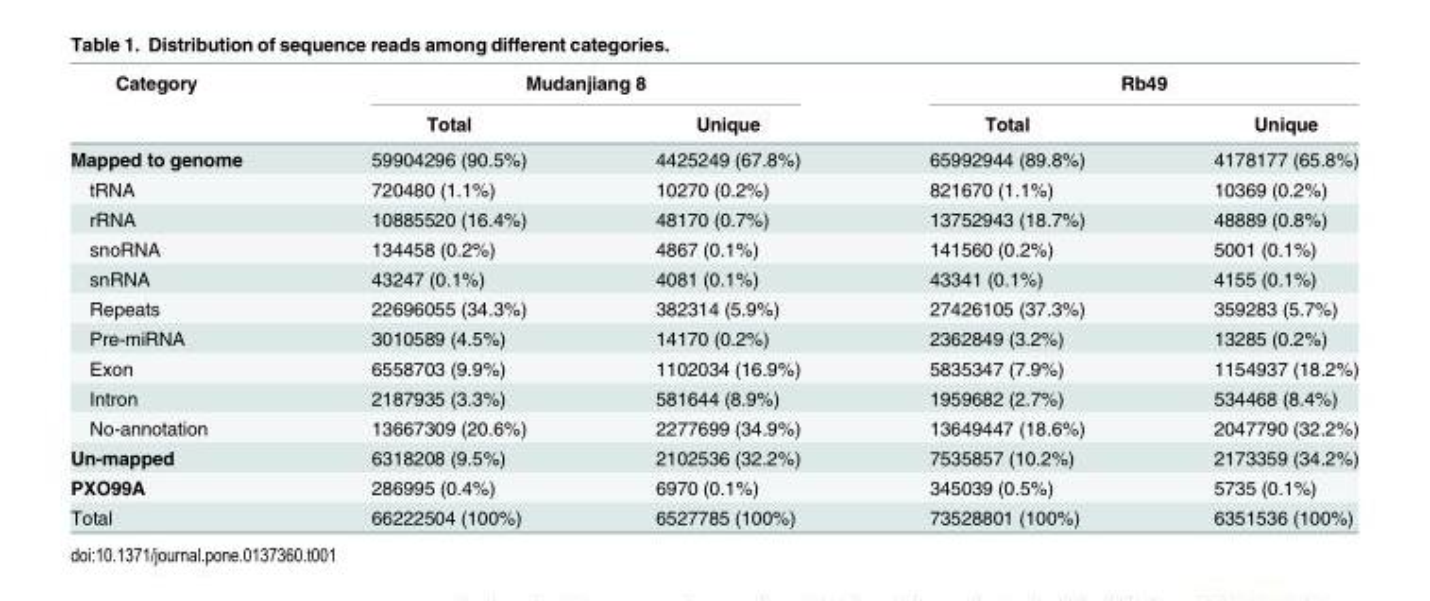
<table><thead><tr><td rowspan="2">Category</td><td colspan="2">Mudanjiang 8</td><td colspan="2">Rb49</td></tr><tr><td>Total</td><td>Unique</td><td>Total</td><td>Unique</td></tr></thead><tbody><tr><td>Mapped to genome</td><td>59904296 (90.5%)</td><td>4425249 (67.8%)</td><td>65992944 (89.8%)</td><td>4178177 (65.8%)</td></tr><tr><td>tRNA</td><td>720480 (1.1%)</td><td>10270 (0.2%)</td><td>821670 (1.1%)</td><td>10369 (0.2%)</td></tr><tr><td>rRNA</td><td>10885520 (16.4%)</td><td>48170 (0.7%)</td><td>13752943 (18.7%)</td><td>48889 (0.8%)</td></tr><tr><td>snoRNA</td><td>134458 (0.2%)</td><td>4867 (0.1%)</td><td>141560 (0.2%)</td><td>5001 (0.1%)</td></tr><tr><td>snRNA</td><td>43247 (0.1%)</td><td>4081 (0.1%)</td><td>43341 (0.1%)</td><td>4155 (0.1%)</td></tr><tr><td>Repeats</td><td>22696055 (34.3%)</td><td>382314 (5.9%)</td><td>27426105 (37.3%)</td><td>359283 (5.7%)</td></tr><tr><td>Pre-miRNA</td><td>3010589 (4.5%)</td><td>14170 (0.2%)</td><td>2362849 (3.2%)</td><td>13285 (0.2%)</td></tr><tr><td>Exon</td><td>6558703 (9.9%)</td><td>1102034 (16.9%)</td><td>5835347 (7.9%)</td><td>1154937 (18.2%)</td></tr><tr><td>Intron</td><td>2187935 (3.3%)</td><td>581644 (8.9%)</td><td>1959682 (2.7%)</td><td>534468 (8.4%)</td></tr><tr><td>No-annotation</td><td>13667309 (20.6%)</td><td>2277699 (34.9%)</td><td>13649447 (18.6%)</td><td>2047790 (32.2%)</td></tr><tr><td>Un-mapped</td><td>6318208 (9.5%)</td><td>2102536 (32.2%)</td><td>7535857 (10.2%)</td><td>2173359 (34.2%)</td></tr><tr><td>PXO99A</td><td>286995 (0.4%)</td><td>6970 (0.1%)</td><td>345039 (0.5%)</td><td>5735 (0.1%)</td></tr><tr><td>Total</td><td>66222504 (100%)</td><td>6527785 (100%)</td><td>73528801 (100%)</td><td>6351536 (100%)</td></tr></tbody></table>